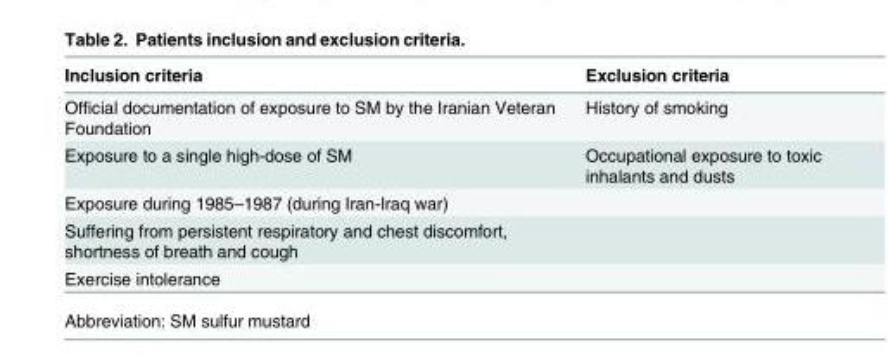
<table><thead><tr><td>Inclusion criteria</td><td>Exclusion criteria</td></tr></thead><tbody><tr><td>Official documentation of exposure to SM by the Iranian Veteran Foundation</td><td>History of smoking</td></tr><tr><td>Exposure to a single high-dose of SM</td><td>Occupational exposure to toxic inhalants and dusts</td></tr><tr><td colspan="2">Exposure during 1985–1987 (during Iran-Iraq war)</td></tr><tr><td colspan="2">Suffering from persistent respiratory and chest discomfort, shortness of breath and cough</td></tr><tr><td>Exercise intolerance</td><td></td></tr></tbody></table>